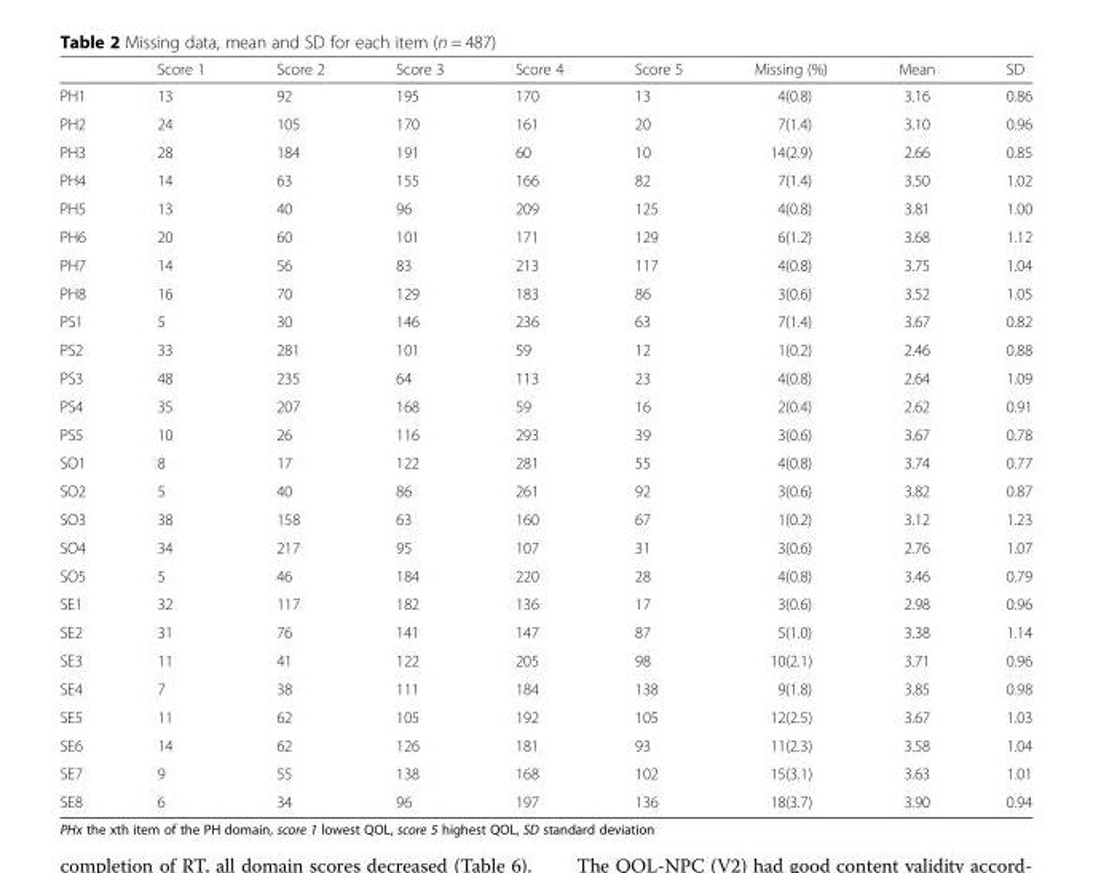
<table><thead><tr><td></td><td>Score 1</td><td>Score 2</td><td>Score 3</td><td>Score 4</td><td>Score 5</td><td>Missing (%)</td><td>Mean</td><td>SD</td></tr></thead><tbody><tr><td>PH1</td><td>13</td><td>92</td><td>195</td><td>170</td><td>13</td><td>4(0.8)</td><td>3.16</td><td>0.86</td></tr><tr><td>PH2</td><td>24</td><td>105</td><td>170</td><td>161</td><td>20</td><td>7(1.4)</td><td>3.10</td><td>0.96</td></tr><tr><td>PH3</td><td>28</td><td>184</td><td>191</td><td>60</td><td>10</td><td>14(2.9)</td><td>2.66</td><td>0.85</td></tr><tr><td>PH4</td><td>14</td><td>63</td><td>155</td><td>166</td><td>82</td><td>7(1.4)</td><td>3.50</td><td>1.02</td></tr><tr><td>PH5</td><td>13</td><td>40</td><td>96</td><td>209</td><td>125</td><td>4(0.8)</td><td>3.81</td><td>1.00</td></tr><tr><td>PH6</td><td>20</td><td>60</td><td>101</td><td>171</td><td>129</td><td>6(1.2)</td><td>3.68</td><td>1.12</td></tr><tr><td>PH7</td><td>14</td><td>56</td><td>83</td><td>213</td><td>117</td><td>4(0.8)</td><td>3.75</td><td>1.04</td></tr><tr><td>PH8</td><td>16</td><td>70</td><td>129</td><td>183</td><td>86</td><td>3(0.6)</td><td>3.52</td><td>1.05</td></tr><tr><td>PS1</td><td>5</td><td>30</td><td>146</td><td>236</td><td>63</td><td>7(1.4)</td><td>3.67</td><td>0.82</td></tr><tr><td>PS2</td><td>33</td><td>281</td><td>101</td><td>59</td><td>12</td><td>1(0.2)</td><td>2.46</td><td>0.88</td></tr><tr><td>PS3</td><td>48</td><td>235</td><td>64</td><td>113</td><td>23</td><td>4(0.8)</td><td>2.64</td><td>1.09</td></tr><tr><td>PS4</td><td>35</td><td>207</td><td>168</td><td>59</td><td>16</td><td>2(0.4)</td><td>2.62</td><td>0.91</td></tr><tr><td>PS5</td><td>10</td><td>26</td><td>116</td><td>293</td><td>39</td><td>3(0.6)</td><td>3.67</td><td>0.78</td></tr><tr><td>SO1</td><td>8</td><td>17</td><td>122</td><td>281</td><td>55</td><td>4(0.8)</td><td>3.74</td><td>0.77</td></tr><tr><td>SO2</td><td>5</td><td>40</td><td>86</td><td>261</td><td>92</td><td>3(0.6)</td><td>3.82</td><td>0.87</td></tr><tr><td>SO3</td><td>38</td><td>158</td><td>63</td><td>160</td><td>67</td><td>1(0.2)</td><td>3.12</td><td>1.23</td></tr><tr><td>SO4</td><td>34</td><td>217</td><td>95</td><td>107</td><td>31</td><td>3(0.6)</td><td>2.76</td><td>1.07</td></tr><tr><td>SO5</td><td>5</td><td>46</td><td>184</td><td>220</td><td>28</td><td>4(0.8)</td><td>3.46</td><td>0.79</td></tr><tr><td>SE1</td><td>32</td><td>117</td><td>182</td><td>136</td><td>17</td><td>3(0.6)</td><td>2.98</td><td>0.96</td></tr><tr><td>SE2</td><td>31</td><td>76</td><td>141</td><td>147</td><td>87</td><td>5(1.0)</td><td>3.38</td><td>1.14</td></tr><tr><td>SE3</td><td>11</td><td>41</td><td>122</td><td>205</td><td>98</td><td>10(2.1)</td><td>3.71</td><td>0.96</td></tr><tr><td>SE4</td><td>7</td><td>38</td><td>111</td><td>184</td><td>138</td><td>9(1.8)</td><td>3.85</td><td>0.98</td></tr><tr><td>SE5</td><td>11</td><td>62</td><td>105</td><td>192</td><td>105</td><td>12(2.5)</td><td>3.67</td><td>1.03</td></tr><tr><td>SE6</td><td>14</td><td>62</td><td>126</td><td>181</td><td>93</td><td>11(2.3)</td><td>3.58</td><td>1.04</td></tr><tr><td>SE7</td><td>9</td><td>55</td><td>138</td><td>168</td><td>102</td><td>15(3.1)</td><td>3.63</td><td>1.01</td></tr><tr><td>SE8</td><td>6</td><td>34</td><td>96</td><td>197</td><td>136</td><td>18(3.7)</td><td>3.90</td><td>0.94</td></tr></tbody></table>